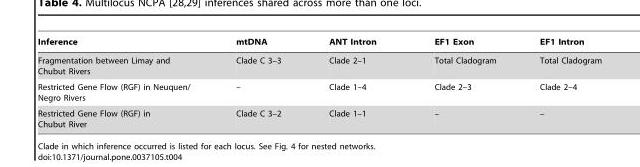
<table><thead><tr><td>Inference</td><td>mtDNA</td><td>ANT Intron</td><td>EF1 Exon</td><td>EF1 Intron</td></tr></thead><tbody><tr><td>Fragmentation between Limay and Chubut Rivers</td><td>Clade C 3–3</td><td>Clade 2–1</td><td>Total Cladogram</td><td>Total Cladogram</td></tr><tr><td>Restricted Gene Flow (RGF) in Neuquen/ Negro Rivers</td><td>–</td><td>Clade 1–4</td><td>Clade 2–3</td><td>Clade 2–4</td></tr><tr><td>Restricted Gene Flow (RGF) in Chubut River</td><td>Clade C 3–2</td><td>Clade 1–1</td><td>–</td><td>–</td></tr></tbody></table>